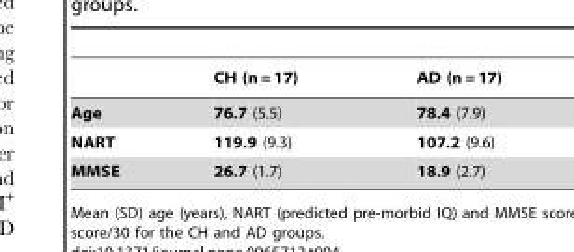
<table><thead><tr><td></td><td>CH (n = 17)</td><td>AD (n = 17)</td></tr></thead><tbody><tr><td>Age</td><td>76.7 (5.5)</td><td>78.4 (7.9)</td></tr><tr><td>NART</td><td>119.9 (9.3)</td><td>107.2 (9.6)</td></tr><tr><td>MMSE</td><td>26.7 (1.7)</td><td>18.9 (2.7)</td></tr></tbody></table>